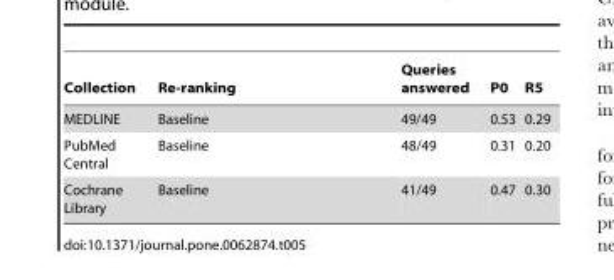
<table><thead><tr><td>Collection</td><td>Re-ranking</td><td>Queries answered</td><td>P0</td><td>R5</td></tr></thead><tbody><tr><td>MEDLINE</td><td>Baseline</td><td>49/49</td><td>0.53</td><td>0.29</td></tr><tr><td>PubMed Central</td><td>Baseline</td><td>48/49</td><td>0.31</td><td>0.20</td></tr><tr><td>Cochrane Library</td><td>Baseline</td><td>41/49</td><td>0.47</td><td>0.30</td></tr></tbody></table>